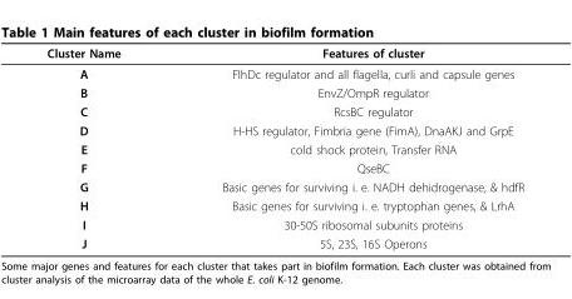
<table><thead><tr><td>Cluster Name</td><td>Features of cluster</td></tr></thead><tbody><tr><td>A</td><td>FlhDc regulator and all flagella, curli and capsule genes</td></tr><tr><td>B</td><td>EnvZ/OmpR regulator</td></tr><tr><td>C</td><td>RcsBC regulator</td></tr><tr><td>D</td><td>H-HS regulator, Fimbria gene (FimA), DnaAKJ and GrpE</td></tr><tr><td>E</td><td>cold shock protein, Transfer RNA</td></tr><tr><td>F</td><td>QseBC</td></tr><tr><td>G</td><td>Basic genes for surviving i. e. NADH dehidrogenase, &amp; hdfR</td></tr><tr><td>H</td><td>Basic genes for surviving i. e. tryptophan genes, &amp; LrhA</td></tr><tr><td>I</td><td>30-50S ribosomal subunits proteins</td></tr><tr><td>J</td><td>5S, 23S, 16S Operons</td></tr></tbody></table>